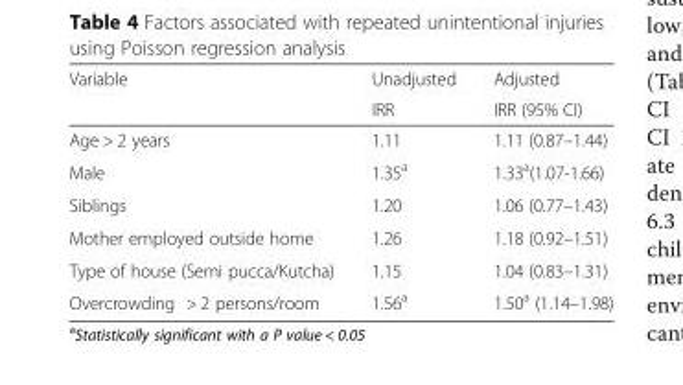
<table><thead><tr><td rowspan="2">Variable</td><td rowspan="2">Unadjusted IRR</td><td rowspan="2">Adjusted IRR (95% CI)</td></tr><tr></tr></thead><tbody><tr><td>Age &gt; 2 years</td><td>1.11</td><td>1.11 (0.87–1.44)</td></tr><tr><td>Male</td><td>1.35<sup>a</sup></td><td>1.33<sup>a</sup>(1.07-1.66)</td></tr><tr><td>Siblings</td><td>1.20</td><td>1.06 (0.77–1.43)</td></tr><tr><td>Mother employed outside home</td><td>1.26</td><td>1.18 (0.92–1.51)</td></tr><tr><td>Type of house (Semi pucca/Kutcha)</td><td>1.15</td><td>1.04 (0.83–1.31)</td></tr><tr><td>Overcrowding &gt; 2 persons/room</td><td>1.56<sup>a</sup></td><td>1.50<sup>a</sup> (1.14–1.98)</td></tr></tbody></table>